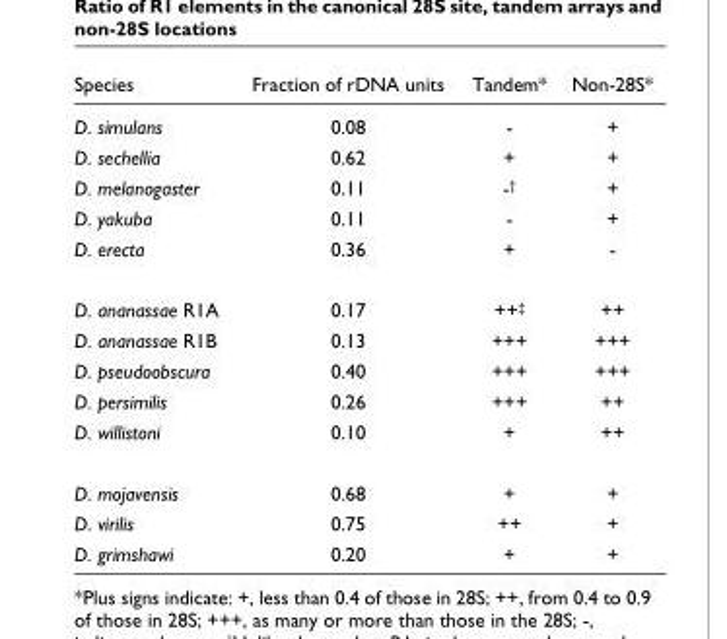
<table><thead><tr><td>Species</td><td>Fraction of rDNA units</td><td>Tandem*</td><td>Non-28S*</td></tr></thead><tbody><tr><td>D. simulans</td><td>0.08</td><td>-</td><td>+</td></tr><tr><td>D. sechellia</td><td>0.62</td><td>+</td><td>+</td></tr><tr><td>D. melanogaster</td><td>0.11</td><td>-<sup>†</sup></td><td>+</td></tr><tr><td>D. yakuba</td><td>0.11</td><td>-</td><td>+</td></tr><tr><td>D. erecta</td><td>0.36</td><td>+</td><td>-</td></tr><tr><td>D. ananassae R1A</td><td>0.17</td><td>++<sup>‡</sup></td><td>++</td></tr><tr><td>D. ananassae R1B</td><td>0.13</td><td>+++</td><td>+++</td></tr><tr><td>D. pseudoobscura</td><td>0.40</td><td>+++</td><td>+++</td></tr><tr><td>D. persimilis</td><td>0.26</td><td>+++</td><td>++</td></tr><tr><td>D. willistoni</td><td>0.10</td><td>+</td><td>++</td></tr><tr><td>D. mojavensis</td><td>0.68</td><td>+</td><td>+</td></tr><tr><td>D. virilis</td><td>0.75</td><td>++</td><td>+</td></tr><tr><td>D. grimshawi</td><td>0.20</td><td>+</td><td>+</td></tr></tbody></table>